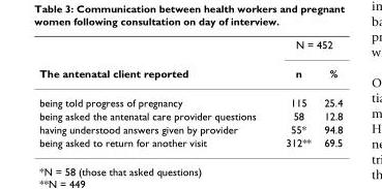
<table><thead><tr><td rowspan="2">The antenatal client reported</td><td colspan="2">N = 452</td></tr><tr><td>n</td><td>%</td></tr></thead><tbody><tr><td>being told progress of pregnancy</td><td>115</td><td>25.4</td></tr><tr><td>being asked the antenatal care provider questions</td><td>58</td><td>12.8</td></tr><tr><td>having understood answers given by provider</td><td>55*</td><td>94.8</td></tr><tr><td>being asked to return for another visit</td><td>312**</td><td>69.5</td></tr></tbody></table>